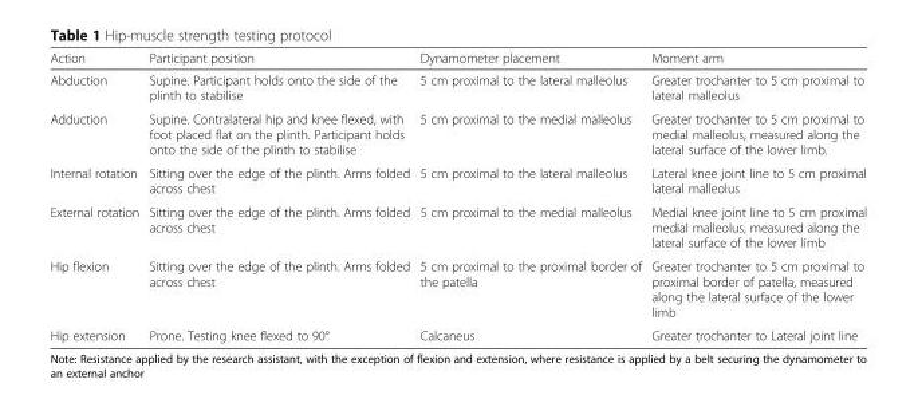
<table><thead><tr><td>Action</td><td>Participant position</td><td>Dynamometer placement</td><td>Moment arm</td></tr></thead><tbody><tr><td>Abduction</td><td>Supine. Participant holds onto the side of the plinth to stabilise</td><td>5 cm proximal to the lateral malleolus</td><td>Greater trochanter to 5 cm proximal to lateral malleolus</td></tr><tr><td>Adduction</td><td>Supine. Contralateral hip and knee flexed, with foot placed flat on the plinth. Participant holds onto the side of the plinth to stabilise</td><td>5 cm proximal to the medial malleolus</td><td>Greater trochanter to 5 cm proximal to medial malleolus, measured along the lateral surface of the lower limb.</td></tr><tr><td>Internal rotation</td><td>Sitting over the edge of the plinth. Arms folded across chest</td><td>5 cm proximal to the lateral malleolus</td><td>Lateral knee joint line to 5 cm proximal lateral malleolus</td></tr><tr><td>External rotation</td><td>Sitting over the edge of the plinth. Arms folded across chest</td><td>5 cm proximal to the medial malleolus</td><td>Medial knee joint line to 5 cm proximal medial malleolus, measured along the lateral surface of the lower limb</td></tr><tr><td>Hip flexion</td><td>Sitting over the edge of the plinth. Arms folded across chest</td><td>5 cm proximal to the proximal border of the patella</td><td>Greater trochanter to 5 cm proximal to proximal border of patella, measured along the lateral surface of the lower limb</td></tr><tr><td>Hip extension</td><td>Prone. Testing knee flexed to 90°</td><td>Calcaneus</td><td>Greater trochanter to Lateral joint line</td></tr></tbody></table>